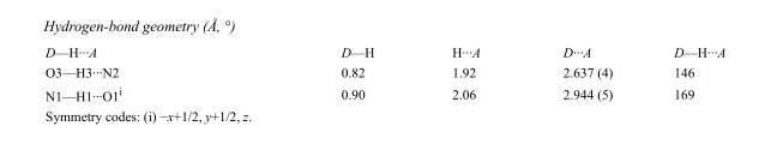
<table><tbody><tr><td>D—H···A</td><td>D—H</td><td>H···A</td><td>D···A</td><td>D—H···A</td></tr><tr><td>O3—H3···N2</td><td>0.82</td><td>1.92</td><td>2.637 (4)</td><td>146</td></tr><tr><td>N1—H1···O1<sup>i</sup></td><td>0.90</td><td>2.06</td><td>2.944 (5)</td><td>169</td></tr></tbody></table>